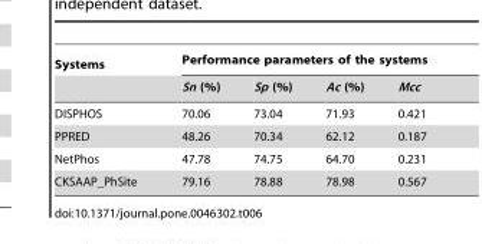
<table><thead><tr><td rowspan="2">Systems</td><td colspan="4">Performance parameters of the systems</td></tr><tr><td>Sn (%)</td><td>Sp (%)</td><td>Ac (%)</td><td>Mcc</td></tr></thead><tbody><tr><td>DISPHOS</td><td>70.06</td><td>73.04</td><td>71.93</td><td>0.421</td></tr><tr><td>PPRED</td><td>48.26</td><td>70.34</td><td>62.12</td><td>0.187</td></tr><tr><td>NetPhos</td><td>47.78</td><td>74.75</td><td>64.70</td><td>0.231</td></tr><tr><td>CKSAAP_PhSite</td><td>79.16</td><td>78.88</td><td>78.98</td><td>0.567</td></tr></tbody></table>